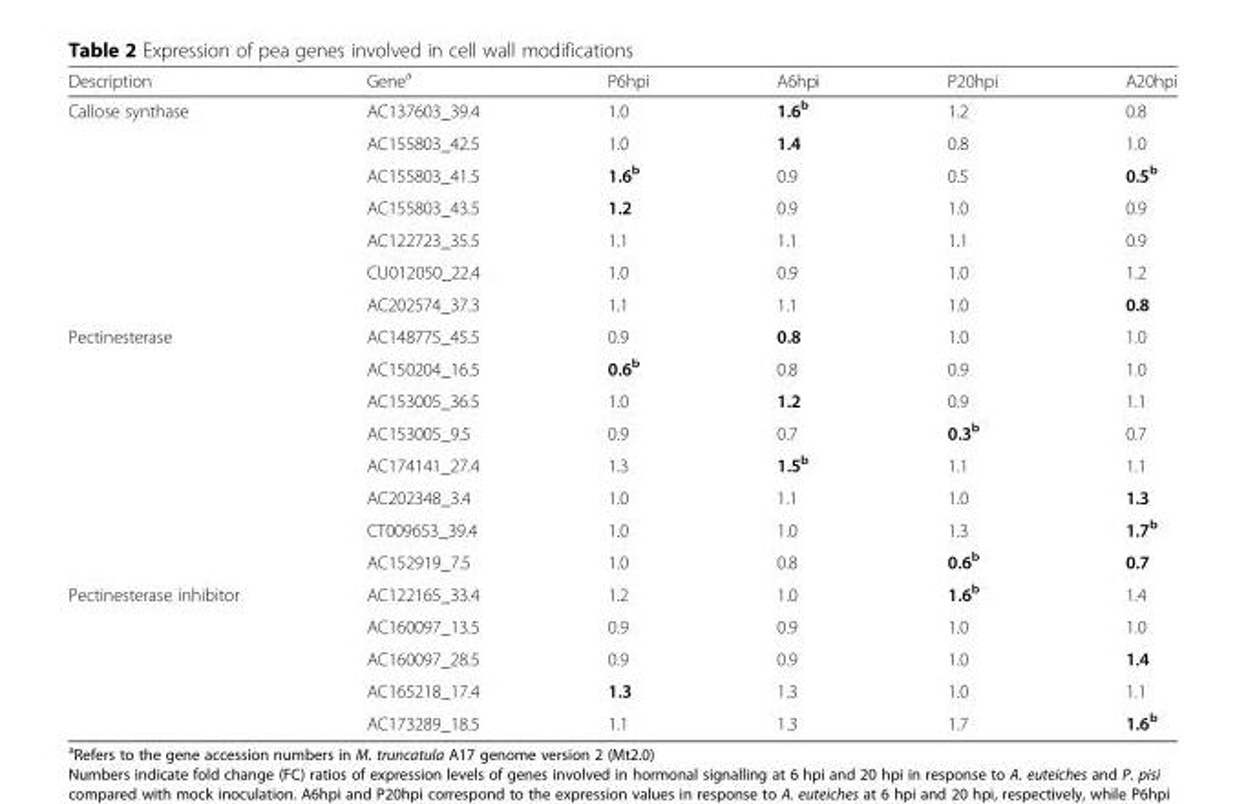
<table><thead><tr><td>Description</td><td>Gene<sup>a</sup></td><td>P6hpi</td><td>A6hpi</td><td>P20hpi</td><td>A20hpi</td></tr></thead><tbody><tr><td rowspan="7">Callose synthase</td><td>AC137603_39.4</td><td>1.0</td><td>1.6<sup>b</sup></td><td>1.2</td><td>0.8</td></tr><tr><td>AC155803_42.5</td><td>1.0</td><td>1.4</td><td>0.8</td><td>1.0</td></tr><tr><td>AC155803_41.5</td><td>1.6<sup>b</sup></td><td>0.9</td><td>0.5</td><td>0.5<sup>b</sup></td></tr><tr><td>AC155803_43.5</td><td>1.2</td><td>0.9</td><td>1.0</td><td>0.9</td></tr><tr><td>AC122723_35.5</td><td>1.1</td><td>1.1</td><td>1.1</td><td>0.9</td></tr><tr><td>CU012050_22.4</td><td>1.0</td><td>0.9</td><td>1.0</td><td>1.2</td></tr><tr><td>AC202574_37.3</td><td>1.1</td><td>1.1</td><td>1.0</td><td>0.8</td></tr><tr><td rowspan="8">Pectinesterase</td><td>AC148775_45.5</td><td>0.9</td><td>0.8</td><td>1.0</td><td>1.0</td></tr><tr><td>AC150204_16.5</td><td>0.6<sup>b</sup></td><td>0.8</td><td>0.9</td><td>1.0</td></tr><tr><td>AC153005_36.5</td><td>1.0</td><td>1.2</td><td>0.9</td><td>1.1</td></tr><tr><td>AC153005_9.5</td><td>0.9</td><td>0.7</td><td>0.3<sup>b</sup></td><td>0.7</td></tr><tr><td>AC174141_27.4</td><td>1.3</td><td>1.5<sup>b</sup></td><td>1.1</td><td>1.1</td></tr><tr><td>AC202348_3.4</td><td>1.0</td><td>1.1</td><td>1.0</td><td>1.3</td></tr><tr><td>CT009653_39.4</td><td>1.0</td><td>1.0</td><td>1.3</td><td>1.7<sup>b</sup></td></tr><tr><td>AC152919_7.5</td><td>1.0</td><td>0.8</td><td>0.6<sup>b</sup></td><td>0.7</td></tr><tr><td rowspan="5">Pectinesterase inhibitor</td><td>AC122165_33.4</td><td>1.2</td><td>1.0</td><td>1.6<sup>b</sup></td><td>1.4</td></tr><tr><td>AC160097_13.5</td><td>0.9</td><td>0.9</td><td>1.0</td><td>1.0</td></tr><tr><td>AC160097_28.5</td><td>0.9</td><td>0.9</td><td>1.0</td><td>1.4</td></tr><tr><td>AC165218_17.4</td><td>1.3</td><td>1.3</td><td>1.0</td><td>1.1</td></tr><tr><td>AC173289_18.5</td><td>1.1</td><td>1.3</td><td>1.7</td><td>1.6<sup>b</sup></td></tr></tbody></table>